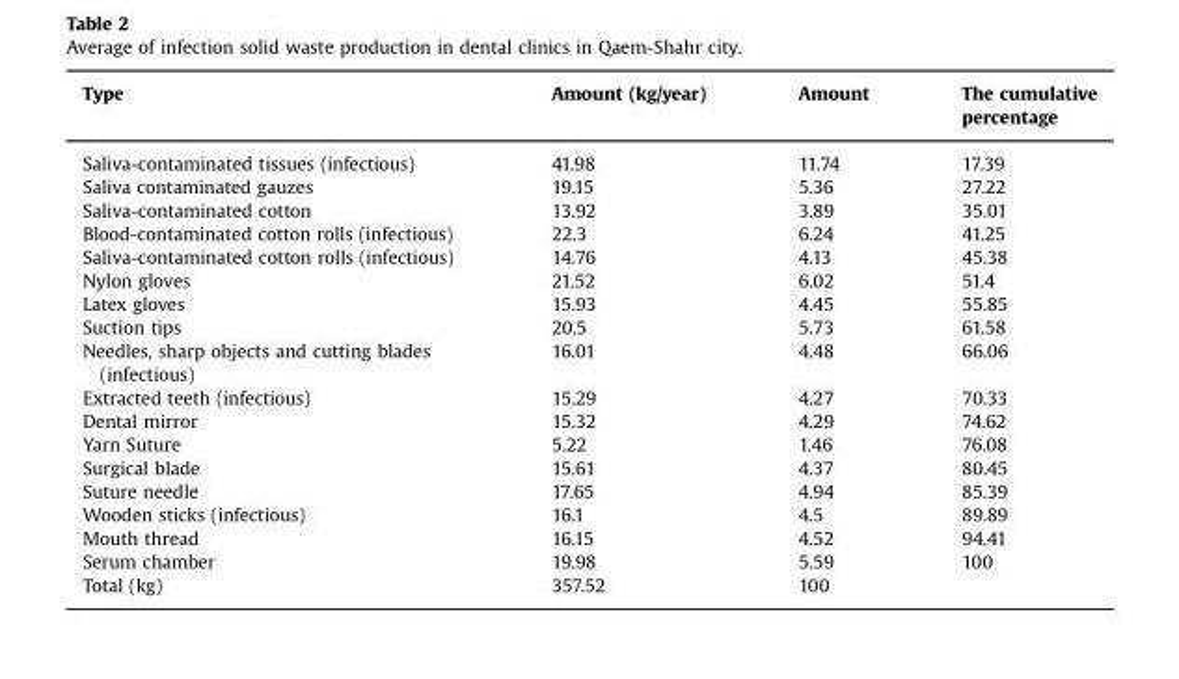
<table><thead><tr><td rowspan="2">Type</td><td rowspan="2">Amount (kg/year)</td><td rowspan="2">Amount</td><td rowspan="2">The cumulative percentage</td></tr><tr></tr></thead><tbody><tr><td>Saliva-contaminated tissues (infectious)</td><td>41.98</td><td>11.74</td><td>17.39</td></tr><tr><td>Saliva contaminated gauzes</td><td>19.15</td><td>5.36</td><td>27.22</td></tr><tr><td>Saliva-contaminated cotton</td><td>13.92</td><td>3.89</td><td>35.01</td></tr><tr><td>Blood-contaminated cotton rolls (infectious)</td><td>22.3</td><td>6.24</td><td>41.25</td></tr><tr><td>Saliva-contaminated cotton rolls (infectious)</td><td>14.76</td><td>4.13</td><td>45.38</td></tr><tr><td>Nylon gloves</td><td>21.52</td><td>6.02</td><td>51.4</td></tr><tr><td>Latex gloves</td><td>15.93</td><td>4.45</td><td>55.85</td></tr><tr><td>Suction tips</td><td>20.5</td><td>5.73</td><td>61.58</td></tr><tr><td>Needles, sharp objects and cutting blades (infectious)</td><td>16.01</td><td>4.48</td><td>66.06</td></tr><tr><td>Extracted teeth (infectious)</td><td>15.29</td><td>4.27</td><td>70.33</td></tr><tr><td>Dental mirror</td><td>15.32</td><td>4.29</td><td>74.62</td></tr><tr><td>Yarn Suture</td><td>5.22</td><td>1.46</td><td>76.08</td></tr><tr><td>Surgical blade</td><td>15.61</td><td>4.37</td><td>80.45</td></tr><tr><td>Suture needle</td><td>17.65</td><td>4.94</td><td>85.39</td></tr><tr><td>Wooden sticks (infectious)</td><td>16.1</td><td>4.5</td><td>89.89</td></tr><tr><td>Mouth thread</td><td>16.15</td><td>4.52</td><td>94.41</td></tr><tr><td>Serum chamber</td><td>19.98</td><td>5.59</td><td>100</td></tr><tr><td>Total (kg)</td><td>357.52</td><td>100</td><td></td></tr></tbody></table>